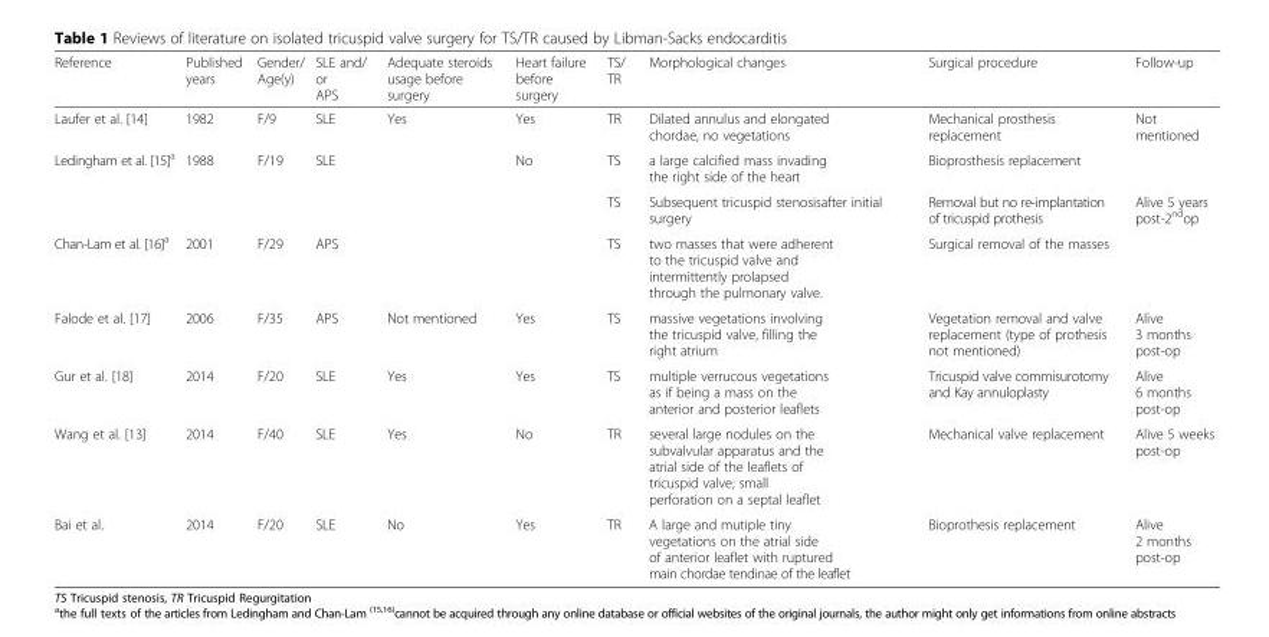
<table><thead><tr><td>Reference</td><td>Published years</td><td>Gender/ Age(y)</td><td>SLE and/ or APS</td><td>Adequate steroids usage before surgery</td><td>Heart failure before surgery</td><td>TS/ TR</td><td>Morphological changes</td><td>Surgical procedure</td><td>Follow-up</td></tr></thead><tbody><tr><td>Laufer et al. [14]</td><td>1982</td><td>F/9</td><td>SLE</td><td>Yes</td><td>Yes</td><td>TR</td><td>Dilated annulus and elongated chordae, no vegetations</td><td>Mechanical prosthesis replacement</td><td>Not mentioned</td></tr><tr><td rowspan="2">Ledingham et al. [15]<sup>a</sup></td><td>1988</td><td>F/19</td><td>SLE</td><td></td><td>No</td><td>TS</td><td>a large calcified mass invading the right side of the heart</td><td>Bioprosthesis replacement</td><td></td></tr><tr><td></td><td></td><td></td><td></td><td></td><td>TS</td><td>Subsequent tricuspid stenosisafter initial surgery</td><td>Removal but no re-implantation of tricuspid prothesis</td><td>Alive 5 years post-2<sup>nd</sup>op</td></tr><tr><td>Chan-Lam et al. [16]<sup>a</sup></td><td>2001</td><td>F/29</td><td>APS</td><td></td><td></td><td>TS</td><td>two masses that were adherent to the tricuspid valve and intermittently prolapsed through the pulmonary valve.</td><td>Surgical removal of the masses</td><td></td></tr><tr><td>Falode et al. [17]</td><td>2006</td><td>F/35</td><td>APS</td><td>Not mentioned</td><td>Yes</td><td>TS</td><td>massive vegetations involving the tricuspid valve, filling the right atrium</td><td>Vegetation removal and valve replacement (type of prothesis not mentioned)</td><td>Alive 3 months post-op</td></tr><tr><td>Gur et al. [18]</td><td>2014</td><td>F/20</td><td>SLE</td><td>Yes</td><td>Yes</td><td>TS</td><td>multiple verrucous vegetations as if being a mass on the anterior and posterior leaflets</td><td>Tricuspid valve commisurotomy and Kay annuloplasty</td><td>Alive 6 months post-op</td></tr><tr><td>Wang et al. [13]</td><td>2014</td><td>F/40</td><td>SLE</td><td>Yes</td><td>No</td><td>TR</td><td>several large nodules on the subvalvular apparatus and the atrial side of the leaflets of tricuspid valve; small perforation on a septal leaflet</td><td>Mechanical valve replacement</td><td>Alive 5 weeks post-op</td></tr><tr><td>Bai et al.</td><td>2014</td><td>F/20</td><td>SLE</td><td>No</td><td>Yes</td><td>TR</td><td>A large and mutiple tiny vegetations on the atrial side of anterior leaflet with ruptured main chordae tendinae of the leaflet</td><td>Bioprothesis replacement</td><td>Alive 2 months post-op</td></tr></tbody></table>